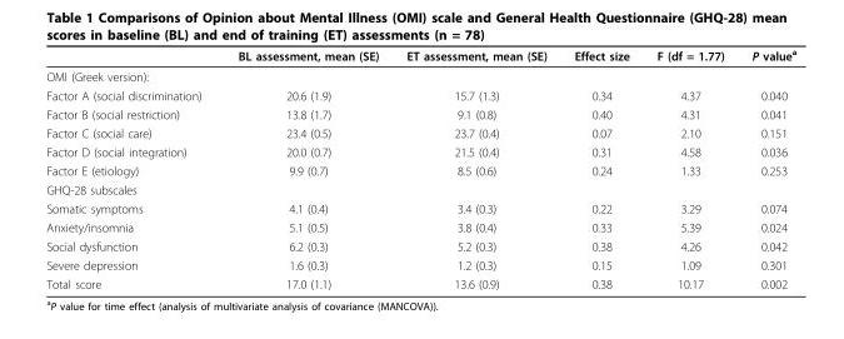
<table><thead><tr><td></td><td>BL assessment, mean (SE)</td><td>ET assessment, mean (SE)</td><td>Effect size</td><td>F (df = 1.77)</td><td>P value<sup>a</sup></td></tr></thead><tbody><tr><td colspan="6">OMI (Greek version):</td></tr><tr><td>Factor A (social discrimination)</td><td>20.6 (1.9)</td><td>15.7 (1.3)</td><td>0.34</td><td>4.37</td><td>0.040</td></tr><tr><td>Factor B (social restriction)</td><td>13.8 (1.7)</td><td>9.1 (0.8)</td><td>0.40</td><td>4.31</td><td>0.041</td></tr><tr><td>Factor C (social care)</td><td>23.4 (0.5)</td><td>23.7 (0.4)</td><td>0.07</td><td>2.10</td><td>0.151</td></tr><tr><td>Factor D (social integration)</td><td>20.0 (0.7)</td><td>21.5 (0.4)</td><td>0.31</td><td>4.58</td><td>0.036</td></tr><tr><td>Factor E (etiology)</td><td>9.9 (0.7)</td><td>8.5 (0.6)</td><td>0.24</td><td>1.33</td><td>0.253</td></tr><tr><td colspan="6">GHQ-28 subscales</td></tr><tr><td>Somatic symptoms</td><td>4.1 (0.4)</td><td>3.4 (0.3)</td><td>0.22</td><td>3.29</td><td>0.074</td></tr><tr><td>Anxiety/insomnia</td><td>5.1 (0.5)</td><td>3.8 (0.4)</td><td>0.33</td><td>5.39</td><td>0.024</td></tr><tr><td>Social dysfunction</td><td>6.2 (0.3)</td><td>5.2 (0.3)</td><td>0.38</td><td>4.26</td><td>0.042</td></tr><tr><td>Severe depression</td><td>1.6 (0.3)</td><td>1.2 (0.3)</td><td>0.15</td><td>1.09</td><td>0.301</td></tr><tr><td>Total score</td><td>17.0 (1.1)</td><td>13.6 (0.9)</td><td>0.38</td><td>10.17</td><td>0.002</td></tr></tbody></table>